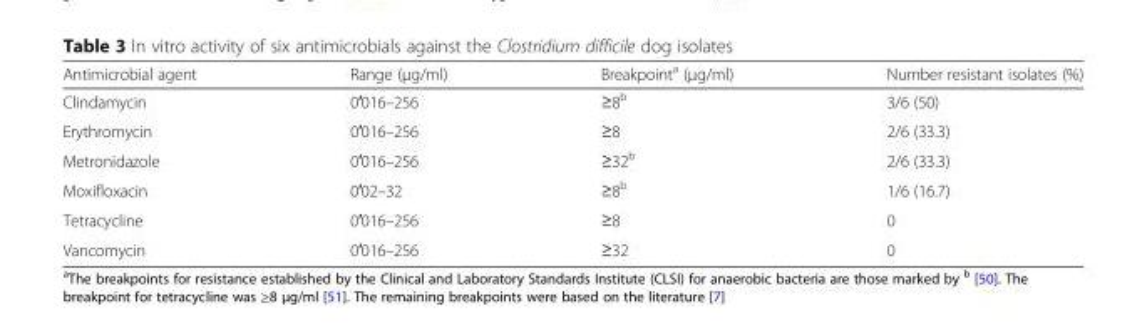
<table><thead><tr><td>Antimicrobial agent</td><td>Range (μg/ml)</td><td>Breakpoint<sup>a</sup> (μg/ml)</td><td>Number resistant isolates (%)</td></tr></thead><tbody><tr><td>Clindamycin</td><td>0′016–256</td><td>≥8<sup>b</sup></td><td>3/6 (50)</td></tr><tr><td>Erythromycin</td><td>0′016–256</td><td>≥8</td><td>2/6 (33.3)</td></tr><tr><td>Metronidazole</td><td>0′016–256</td><td>≥32<sup>b</sup></td><td>2/6 (33.3)</td></tr><tr><td>Moxifloxacin</td><td>0′02–32</td><td>≥8<sup>b</sup></td><td>1/6 (16.7)</td></tr><tr><td>Tetracycline</td><td>0′016–256</td><td>≥8</td><td>0</td></tr><tr><td>Vancomycin</td><td>0′016–256</td><td>≥32</td><td>0</td></tr></tbody></table>